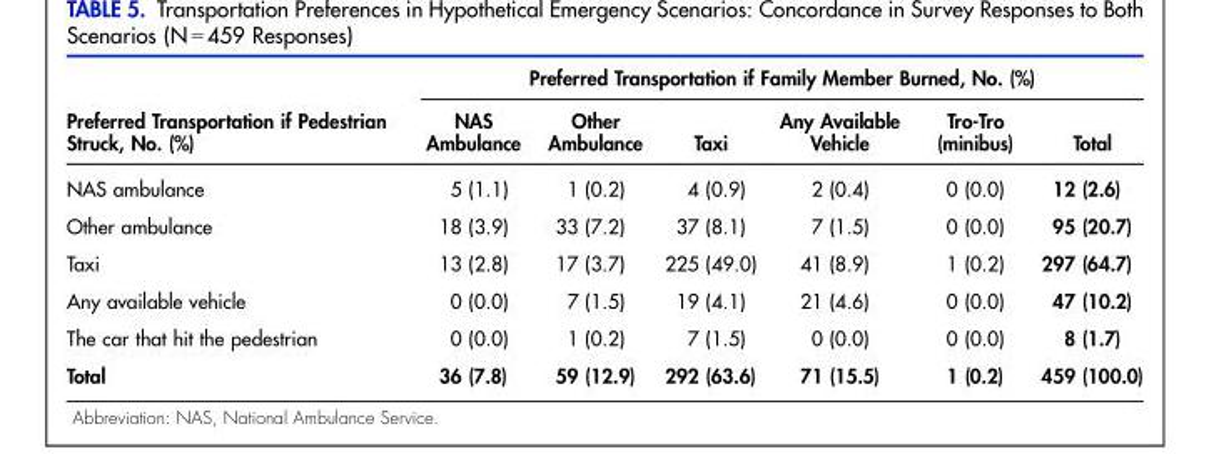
<table><thead><tr><td rowspan="2">Preferred Transportation if Pedestrian Struck, No. (%)</td><td colspan="6">Preferred Transportation if Family Member Burned, No. (%)</td></tr><tr><td>NAS Ambulance</td><td>Other Ambulance</td><td>Taxi</td><td>Any Available Vehicle</td><td>Tro-Tro (minibus)</td><td>Total</td></tr></thead><tbody><tr><td>NAS ambulance</td><td>5 (1.1)</td><td>1 (0.2)</td><td>4 (0.9)</td><td>2 (0.4)</td><td>0 (0.0)</td><td>12 (2.6)</td></tr><tr><td>Other ambulance</td><td>18 (3.9)</td><td>33 (7.2)</td><td>37 (8.1)</td><td>7 (1.5)</td><td>0 (0.0)</td><td>95 (20.7)</td></tr><tr><td>Taxi</td><td>13 (2.8)</td><td>17 (3.7)</td><td>225 (49.0)</td><td>41 (8.9)</td><td>1 (0.2)</td><td>297 (64.7)</td></tr><tr><td>Any available vehicle</td><td>0 (0.0)</td><td>7 (1.5)</td><td>19 (4.1)</td><td>21 (4.6)</td><td>0 (0.0)</td><td>47 (10.2)</td></tr><tr><td>The car that hit the pedestrian</td><td>0 (0.0)</td><td>1 (0.2)</td><td>7 (1.5)</td><td>0 (0.0)</td><td>0 (0.0)</td><td>8 (1.7)</td></tr><tr><td>Total</td><td>36 (7.8)</td><td>59 (12.9)</td><td>292 (63.6)</td><td>71 (15.5)</td><td>1 (0.2)</td><td>459 (100.0)</td></tr></tbody></table>